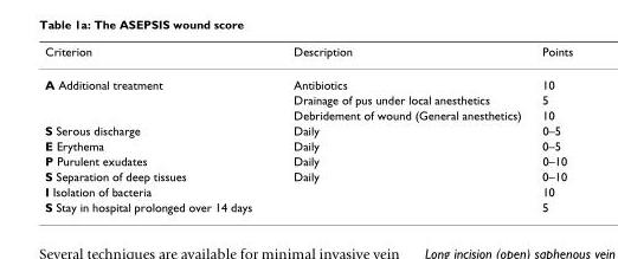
<table><thead><tr><td>Criterion</td><td>Description</td><td>Points</td></tr></thead><tbody><tr><td rowspan="3">A Additional treatment</td><td>Antibiotics</td><td>10</td></tr><tr><td>Drainage of pus under local anesthetics</td><td>5</td></tr><tr><td>Debridement of wound (General anesthetics)</td><td>10</td></tr><tr><td>S Serous discharge</td><td>Daily</td><td>0–5</td></tr><tr><td>E Erythema</td><td>Daily</td><td>0–5</td></tr><tr><td>P Purulent exudates</td><td>Daily</td><td>0–10</td></tr><tr><td>S Separation of deep tissues</td><td>Daily</td><td>0–10</td></tr><tr><td>I Isolation of bacteria</td><td></td><td>10</td></tr><tr><td>S Stay in hospital prolonged over 14 days</td><td></td><td>5</td></tr></tbody></table>